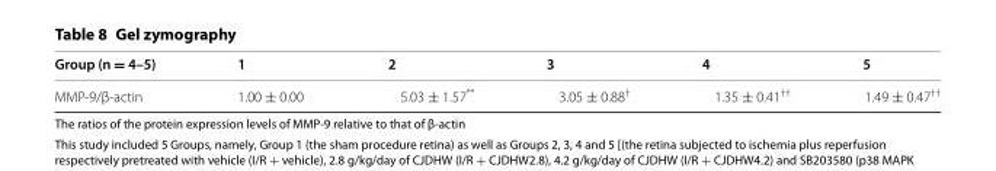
<table><thead><tr><td>Group (n = 4–5)</td><td>1</td><td>2</td><td>3</td><td>4</td><td>5</td></tr></thead><tbody><tr><td>MMP‑9/β‑actin</td><td>1.00 ± 0.00</td><td>5.03 ± 1.57**</td><td>3.05 ± 0.88<sup>†</sup></td><td>1.35 ± 0.41<sup>††</sup></td><td>1.49 ± 0.47<sup>††</sup></td></tr></tbody></table>